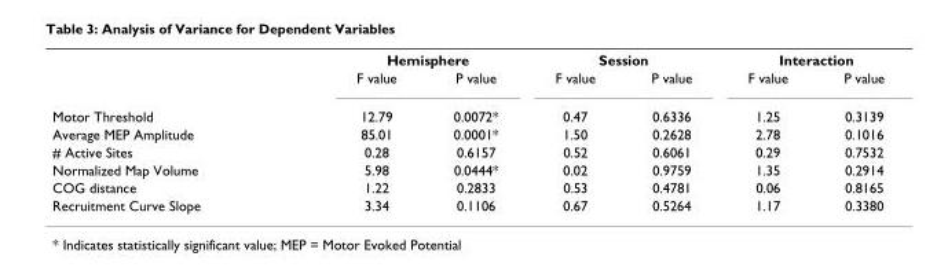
<table><thead><tr><td rowspan="2"></td><td colspan="2">Hemisphere</td><td colspan="2">Session</td><td colspan="2">Interaction</td></tr><tr><td>F value</td><td>P value</td><td>F value</td><td>P value</td><td>F value</td><td>P value</td></tr></thead><tbody><tr><td>Motor Threshold</td><td>12.79</td><td>0.0072*</td><td>0.47</td><td>0.6336</td><td>1.25</td><td>0.3139</td></tr><tr><td>Average MEP Amplitude</td><td>85.01</td><td>0.0001*</td><td>1.50</td><td>0.2628</td><td>2.78</td><td>0.1016</td></tr><tr><td># Active Sites</td><td>0.28</td><td>0.6157</td><td>0.52</td><td>0.6061</td><td>0.29</td><td>0.7532</td></tr><tr><td>Normalized Map Volume</td><td>5.98</td><td>0.0444*</td><td>0.02</td><td>0.9759</td><td>1.35</td><td>0.2914</td></tr><tr><td>COG distance</td><td>1.22</td><td>0.2833</td><td>0.53</td><td>0.4781</td><td>0.06</td><td>0.8165</td></tr><tr><td>Recruitment Curve Slope</td><td>3.34</td><td>0.1106</td><td>0.67</td><td>0.5264</td><td>1.17</td><td>0.3380</td></tr></tbody></table>